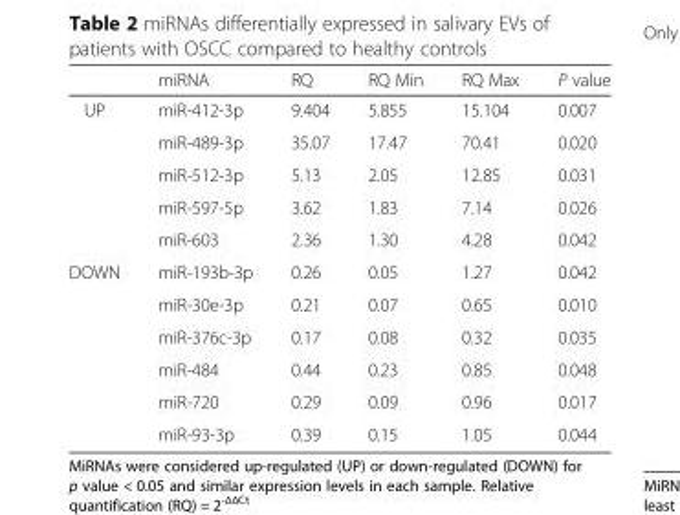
<table><thead><tr><td></td><td>miRNA</td><td>RQ</td><td>RQ Min</td><td>RQ Max</td><td>P value</td></tr></thead><tbody><tr><td rowspan="5">UP</td><td>miR-412-3p</td><td>9.404</td><td>5.855</td><td>15.104</td><td>0.007</td></tr><tr><td>miR-489-3p</td><td>35.07</td><td>17.47</td><td>70.41</td><td>0.020</td></tr><tr><td>miR-512-3p</td><td>5.13</td><td>2.05</td><td>12.85</td><td>0.031</td></tr><tr><td>miR-597-5p</td><td>3.62</td><td>1.83</td><td>7.14</td><td>0.026</td></tr><tr><td>miR-603</td><td>2.36</td><td>1.30</td><td>4.28</td><td>0.042</td></tr><tr><td rowspan="6">DOWN</td><td>miR-193b-3p</td><td>0.26</td><td>0.05</td><td>1.27</td><td>0.042</td></tr><tr><td>miR-30e-3p</td><td>0.21</td><td>0.07</td><td>0.65</td><td>0.010</td></tr><tr><td>miR-376c-3p</td><td>0.17</td><td>0.08</td><td>0.32</td><td>0.035</td></tr><tr><td>miR-484</td><td>0.44</td><td>0.23</td><td>0.85</td><td>0.048</td></tr><tr><td>miR-720</td><td>0.29</td><td>0.09</td><td>0.96</td><td>0.017</td></tr><tr><td>miR-93-3p</td><td>0.39</td><td>0.15</td><td>1.05</td><td>0.044</td></tr></tbody></table>